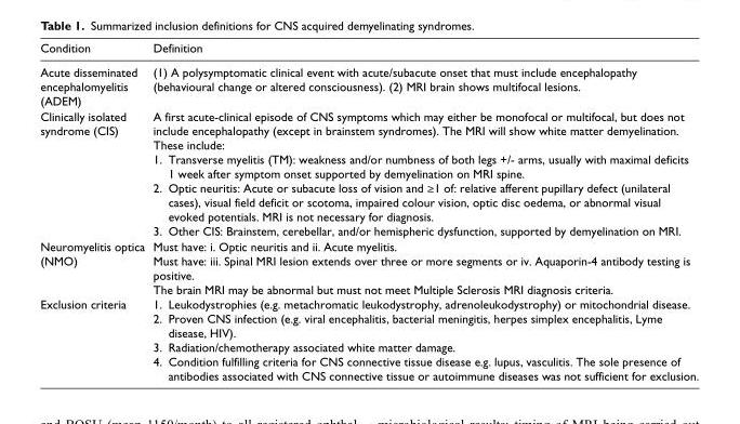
<table><thead><tr><td>Condition</td><td>Definition</td></tr></thead><tbody><tr><td>Acute disseminated encephalomyelitis (ADEM)</td><td>(1) A polysymptomatic clinical event with acute/subacute onset that must include encephalopathy (behavioural change or altered consciousness). (2) MRI brain shows multifocal lesions.</td></tr><tr><td>Clinically isolated syndrome (CIS)</td><td>A first acute-clinical episode of CNS symptoms which may either be monofocal or multifocal, but does not include encephalopathy (except in brainstem syndromes). The MRI will show white matter demyelination. These include: 1. Transverse myelitis (TM): weakness and/or numbness of both legs +/- arms, usually with maximal deficits 1 week after symptom onset supported by demyelination on MRI spine. 2. Optic neuritis: Acute or subacute loss of vision and ≥1 of: relative afferent pupillary defect (unilateral cases), visual field deficit or scotoma, impaired colour vision, optic disc oedema, or abnormal visual evoked potentials. MRI is not necessary for diagnosis. 3. Other CIS: Brainstem, cerebellar, and/or hemispheric dysfunction, supported by demyelination on MRI.</td></tr><tr><td>Neuromyelitis optica (NMO)</td><td>Must have: i. Optic neuritis and ii. Acute myelitis. Must have: iii. Spinal MRI lesion extends over three or more segments or iv. Aquaporin-4 antibody testing is positive. The brain MRI may be abnormal but must not meet Multiple Sclerosis MRI diagnosis criteria.</td></tr><tr><td>Exclusion criteria</td><td>1. Leukodystrophies (e.g. metachromatic leukodystrophy, adrenoleukodystrophy) or mitochondrial disease. 2. Proven CNS infection (e.g. viral encephalitis, bacterial meningitis, herpes simplex encephalitis, Lyme disease, HIV). 3. Radiation/chemotherapy associated white matter damage. 4. Condition fulfilling criteria for CNS connective tissue disease e.g. lupus, vasculitis. The sole presence of antibodies associated with CNS connective tissue or autoimmune diseases was not sufficient for exclusion.</td></tr></tbody></table>